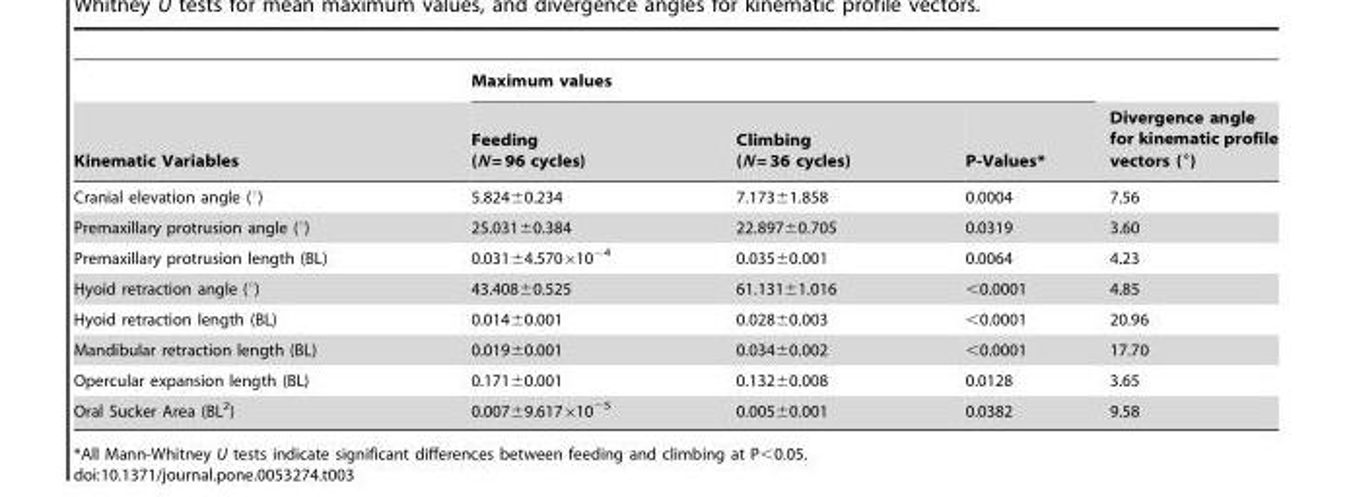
<table><thead><tr><td rowspan="2">Kinematic Variables</td><td colspan="3">Maximum values</td><td rowspan="2">Divergence angle for kinematic profile vectors (°)</td></tr><tr><td>Feeding (N = 96 cycles)</td><td>Climbing (N = 36 cycles)</td><td>P-Values*</td></tr></thead><tbody><tr><td>Cranial elevation angle (°)</td><td>5.824±0.234</td><td>7.173±1.858</td><td>0.0004</td><td>7.56</td></tr><tr><td>Premaxillary protrusion angle (°)</td><td>25.031±0.384</td><td>22.897±0.705</td><td>0.0319</td><td>3.60</td></tr><tr><td>Premaxillary protrusion length (BL)</td><td>0.031±4.570×10<sup>−4</sup></td><td>0.035±0.001</td><td>0.0064</td><td>4.23</td></tr><tr><td>Hyoid retraction angle (°)</td><td>43.408±0.525</td><td>61.131±1.016</td><td>&lt;0.0001</td><td>4.85</td></tr><tr><td>Hyoid retraction length (BL)</td><td>0.014±0.001</td><td>0.028±0.003</td><td>&lt;0.0001</td><td>20.96</td></tr><tr><td>Mandibular retraction length (BL)</td><td>0.019±0.001</td><td>0.034±0.002</td><td>&lt;0.0001</td><td>17.70</td></tr><tr><td>Opercular expansion length (BL)</td><td>0.171±0.001</td><td>0.132±0.008</td><td>0.0128</td><td>3.65</td></tr><tr><td>Oral Sucker Area (BL<sup>2</sup>)</td><td>0.007±9.617×10<sup>−5</sup></td><td>0.005±0.001</td><td>0.0382</td><td>9.58</td></tr></tbody></table>